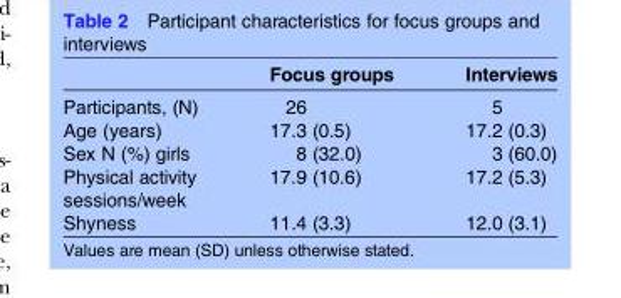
<table><thead><tr><td></td><td>Focus groups</td><td>Interviews</td></tr></thead><tbody><tr><td>Participants, (N)</td><td>26</td><td>5</td></tr><tr><td>Age (years)</td><td>17.3 (0.5)</td><td>17.2 (0.3)</td></tr><tr><td>Sex N (%) girls</td><td>8 (32.0)</td><td>3 (60.0)</td></tr><tr><td>Physical activity sessions/week</td><td>17.9 (10.6)</td><td>17.2 (5.3)</td></tr><tr><td>Shyness</td><td>11.4 (3.3)</td><td>12.0 (3.1)</td></tr></tbody></table>